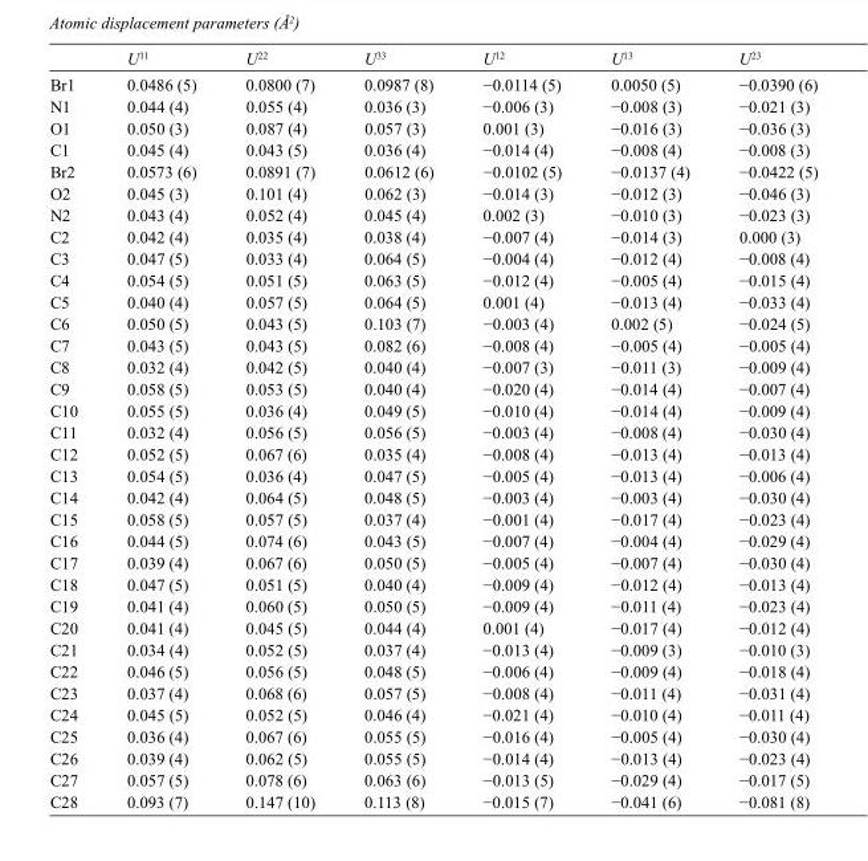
<table><thead><tr><td></td><td>U<sup>11</sup></td><td>U<sup>22</sup></td><td>U<sup>33</sup></td><td>U<sup>12</sup></td><td>U<sup>13</sup></td><td>U<sup>23</sup></td></tr></thead><tbody><tr><td>Br1</td><td>0.0486 (5)</td><td>0.0800 (7)</td><td>0.0987 (8)</td><td>−0.0114 (5)</td><td>0.0050 (5)</td><td>−0.0390 (6)</td></tr><tr><td>N1</td><td>0.044 (4)</td><td>0.055 (4)</td><td>0.036 (3)</td><td>−0.006 (3)</td><td>−0.008 (3)</td><td>−0.021 (3)</td></tr><tr><td>O1</td><td>0.050 (3)</td><td>0.087 (4)</td><td>0.057 (3)</td><td>0.001 (3)</td><td>−0.016 (3)</td><td>−0.036 (3)</td></tr><tr><td>C1</td><td>0.045 (4)</td><td>0.043 (5)</td><td>0.036 (4)</td><td>−0.014 (4)</td><td>−0.008 (4)</td><td>−0.008 (3)</td></tr><tr><td>Br2</td><td>0.0573 (6)</td><td>0.0891 (7)</td><td>0.0612 (6)</td><td>−0.0102 (5)</td><td>−0.0137 (4)</td><td>−0.0422 (5)</td></tr><tr><td>O2</td><td>0.045 (3)</td><td>0.101 (4)</td><td>0.062 (3)</td><td>−0.014 (3)</td><td>−0.012 (3)</td><td>−0.046 (3)</td></tr><tr><td>N2</td><td>0.043 (4)</td><td>0.052 (4)</td><td>0.045 (4)</td><td>0.002 (3)</td><td>−0.010 (3)</td><td>−0.023 (3)</td></tr><tr><td>C2</td><td>0.042 (4)</td><td>0.035 (4)</td><td>0.038 (4)</td><td>−0.007 (4)</td><td>−0.014 (3)</td><td>0.000 (3)</td></tr><tr><td>C3</td><td>0.047 (5)</td><td>0.033 (4)</td><td>0.064 (5)</td><td>−0.004 (4)</td><td>−0.012 (4)</td><td>−0.008 (4)</td></tr><tr><td>C4</td><td>0.054 (5)</td><td>0.051 (5)</td><td>0.063 (5)</td><td>−0.012 (4)</td><td>−0.005 (4)</td><td>−0.015 (4)</td></tr><tr><td>C5</td><td>0.040 (4)</td><td>0.057 (5)</td><td>0.064 (5)</td><td>0.001 (4)</td><td>−0.013 (4)</td><td>−0.033 (4)</td></tr><tr><td>C6</td><td>0.050 (5)</td><td>0.043 (5)</td><td>0.103 (7)</td><td>−0.003 (4)</td><td>0.002 (5)</td><td>−0.024 (5)</td></tr><tr><td>C7</td><td>0.043 (5)</td><td>0.043 (5)</td><td>0.082 (6)</td><td>−0.008 (4)</td><td>−0.005 (4)</td><td>−0.005 (4)</td></tr><tr><td>C8</td><td>0.032 (4)</td><td>0.042 (5)</td><td>0.040 (4)</td><td>−0.007 (3)</td><td>−0.011 (3)</td><td>−0.009 (4)</td></tr><tr><td>C9</td><td>0.058 (5)</td><td>0.053 (5)</td><td>0.040 (4)</td><td>−0.020 (4)</td><td>−0.014 (4)</td><td>−0.007 (4)</td></tr><tr><td>C10</td><td>0.055 (5)</td><td>0.036 (4)</td><td>0.049 (5)</td><td>−0.010 (4)</td><td>−0.014 (4)</td><td>−0.009 (4)</td></tr><tr><td>C11</td><td>0.032 (4)</td><td>0.056 (5)</td><td>0.056 (5)</td><td>−0.003 (4)</td><td>−0.008 (4)</td><td>−0.030 (4)</td></tr><tr><td>C12</td><td>0.052 (5)</td><td>0.067 (6)</td><td>0.035 (4)</td><td>−0.008 (4)</td><td>−0.013 (4)</td><td>−0.013 (4)</td></tr><tr><td>C13</td><td>0.054 (5)</td><td>0.036 (4)</td><td>0.047 (5)</td><td>−0.005 (4)</td><td>−0.013 (4)</td><td>−0.006 (4)</td></tr><tr><td>C14</td><td>0.042 (4)</td><td>0.064 (5)</td><td>0.048 (5)</td><td>−0.003 (4)</td><td>−0.003 (4)</td><td>−0.030 (4)</td></tr><tr><td>C15</td><td>0.058 (5)</td><td>0.057 (5)</td><td>0.037 (4)</td><td>−0.001 (4)</td><td>−0.017 (4)</td><td>−0.023 (4)</td></tr><tr><td>C16</td><td>0.044 (5)</td><td>0.074 (6)</td><td>0.043 (5)</td><td>−0.007 (4)</td><td>−0.004 (4)</td><td>−0.029 (4)</td></tr><tr><td>C17</td><td>0.039 (4)</td><td>0.067 (6)</td><td>0.050 (5)</td><td>−0.005 (4)</td><td>−0.007 (4)</td><td>−0.030 (4)</td></tr><tr><td>C18</td><td>0.047 (5)</td><td>0.051 (5)</td><td>0.040 (4)</td><td>−0.009 (4)</td><td>−0.012 (4)</td><td>−0.013 (4)</td></tr><tr><td>C19</td><td>0.041 (4)</td><td>0.060 (5)</td><td>0.050 (5)</td><td>−0.009 (4)</td><td>−0.011 (4)</td><td>−0.023 (4)</td></tr><tr><td>C20</td><td>0.041 (4)</td><td>0.045 (5)</td><td>0.044 (4)</td><td>0.001 (4)</td><td>−0.017 (4)</td><td>−0.012 (4)</td></tr><tr><td>C21</td><td>0.034 (4)</td><td>0.052 (5)</td><td>0.037 (4)</td><td>−0.013 (4)</td><td>−0.009 (3)</td><td>−0.010 (3)</td></tr><tr><td>C22</td><td>0.046 (5)</td><td>0.056 (5)</td><td>0.048 (5)</td><td>−0.006 (4)</td><td>−0.009 (4)</td><td>−0.018 (4)</td></tr><tr><td>C23</td><td>0.037 (4)</td><td>0.068 (6)</td><td>0.057 (5)</td><td>−0.008 (4)</td><td>−0.011 (4)</td><td>−0.031 (4)</td></tr><tr><td>C24</td><td>0.045 (5)</td><td>0.052 (5)</td><td>0.046 (4)</td><td>−0.021 (4)</td><td>−0.010 (4)</td><td>−0.011 (4)</td></tr><tr><td>C25</td><td>0.036 (4)</td><td>0.067 (6)</td><td>0.055 (5)</td><td>−0.016 (4)</td><td>−0.005 (4)</td><td>−0.030 (4)</td></tr><tr><td>C26</td><td>0.039 (4)</td><td>0.062 (5)</td><td>0.055 (5)</td><td>−0.014 (4)</td><td>−0.013 (4)</td><td>−0.023 (4)</td></tr><tr><td>C27</td><td>0.057 (5)</td><td>0.078 (6)</td><td>0.063 (6)</td><td>−0.013 (5)</td><td>−0.029 (4)</td><td>−0.017 (5)</td></tr><tr><td>C28</td><td>0.093 (7)</td><td>0.147 (10)</td><td>0.113 (8)</td><td>−0.015 (7)</td><td>−0.041 (6)</td><td>−0.081 (8)</td></tr></tbody></table>